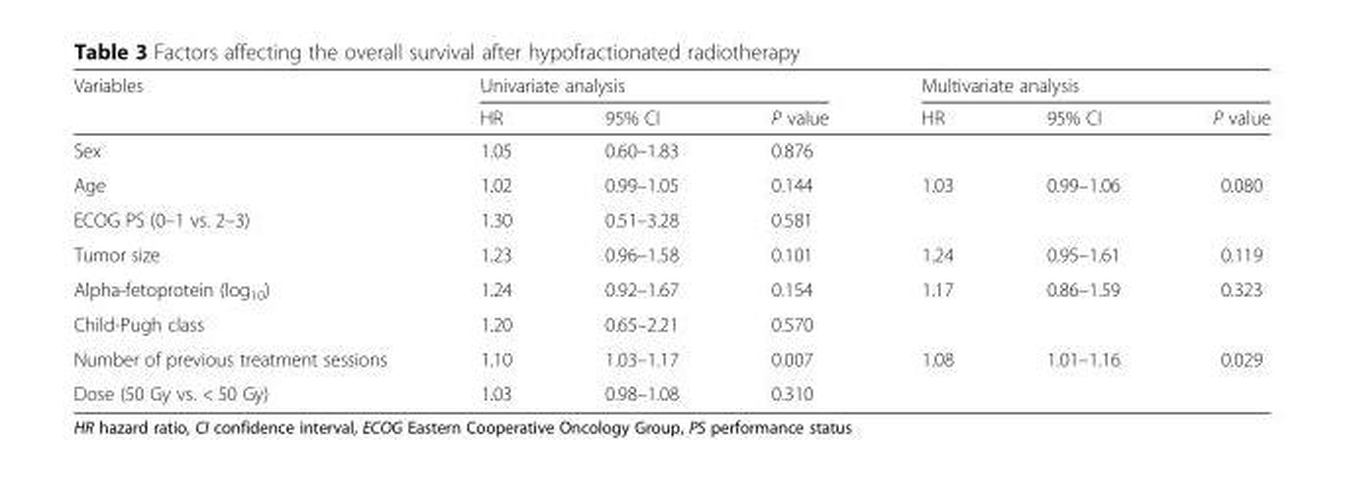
<table><thead><tr><td rowspan="2">Variables</td><td colspan="3">Univariate analysis</td><td colspan="3">Multivariate analysis</td></tr><tr><td>HR</td><td>95% CI</td><td>P value</td><td>HR</td><td>95% CI</td><td>P value</td></tr></thead><tbody><tr><td>Sex</td><td>1.05</td><td>0.60–1.83</td><td>0.876</td><td></td><td></td><td></td></tr><tr><td>Age</td><td>1.02</td><td>0.99–1.05</td><td>0.144</td><td>1.03</td><td>0.99–1.06</td><td>0.080</td></tr><tr><td>ECOG PS (0–1 vs. 2–3)</td><td>1.30</td><td>0.51–3.28</td><td>0.581</td><td></td><td></td><td></td></tr><tr><td>Tumor size</td><td>1.23</td><td>0.96–1.58</td><td>0.101</td><td>1.24</td><td>0.95–1.61</td><td>0.119</td></tr><tr><td>Alpha-fetoprotein (log<sub>10</sub>)</td><td>1.24</td><td>0.92–1.67</td><td>0.154</td><td>1.17</td><td>0.86–1.59</td><td>0.323</td></tr><tr><td>Child-Pugh class</td><td>1.20</td><td>0.65–2.21</td><td>0.570</td><td></td><td></td><td></td></tr><tr><td>Number of previous treatment sessions</td><td>1.10</td><td>1.03–1.17</td><td>0.007</td><td>1.08</td><td>1.01–1.16</td><td>0.029</td></tr><tr><td>Dose (50 Gy vs. &lt; 50 Gy)</td><td>1.03</td><td>0.98–1.08</td><td>0.310</td><td></td><td></td><td></td></tr></tbody></table>